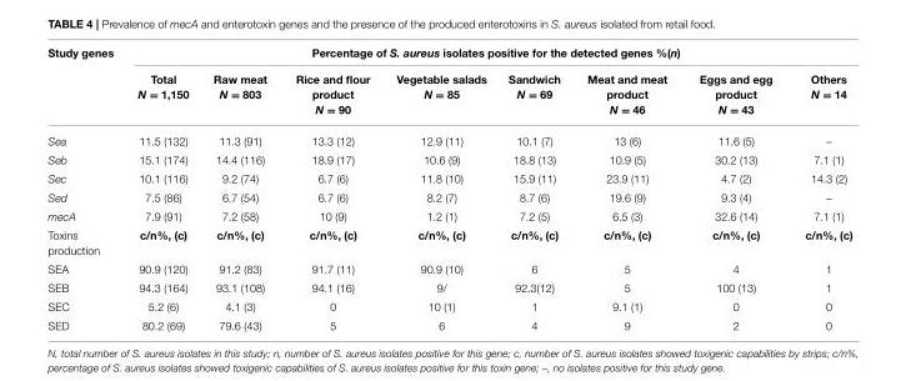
<table><thead><tr><td rowspan="2">Study genes</td><td colspan="8">Percentage of S. aureus isolates positive for the detected genes %(n)</td></tr><tr><td>Total N = 1,150</td><td>Raw meat N = 803</td><td>Rice and flour product N = 90</td><td>Vegetable salads N = 85</td><td>Sandwich N = 69</td><td>Meat and meat product N = 46</td><td>Eggs and egg product N = 43</td><td>Others N = 14</td></tr></thead><tbody><tr><td>Sea</td><td>11.5 (132)</td><td>11.3 (91)</td><td>13.3 (12)</td><td>12.9 (11)</td><td>10.1 (7)</td><td>13 (6)</td><td>11.6 (5)</td><td>–</td></tr><tr><td>Seb</td><td>15.1 (174)</td><td>14.4 (116)</td><td>18.9 (17)</td><td>10.6 (9)</td><td>18.8 (13)</td><td>10.9 (5)</td><td>30.2 (13)</td><td>7.1 (1)</td></tr><tr><td>Sec</td><td>10.1 (116)</td><td>9.2 (74)</td><td>6.7 (6)</td><td>11.8 (10)</td><td>15.9 (11)</td><td>23.9 (11)</td><td>4.7 (2)</td><td>14.3 (2)</td></tr><tr><td>Sed</td><td>7.5 (86)</td><td>6.7 (54)</td><td>6.7 (6)</td><td>8.2 (7)</td><td>8.7 (6)</td><td>19.6 (9)</td><td>9.3 (4)</td><td>–</td></tr><tr><td>mecA</td><td>7.9 (91)</td><td>7.2 (58)</td><td>10 (9)</td><td>1.2 (1)</td><td>7.2 (5)</td><td>6.5 (3)</td><td>32.6 (14)</td><td>7.1 (1)</td></tr><tr><td>Toxins production</td><td>c/n%, (c)</td><td>c/n%, (c)</td><td>c/n%, (c)</td><td>c/n%, (c)</td><td>c/n%, (c)</td><td>c/n%, (c)</td><td>c/n%, (c)</td><td>c/n%, (c)</td></tr><tr><td>SEA</td><td>90.9 (120)</td><td>91.2 (83)</td><td>91.7 (11)</td><td>90.9 (10)</td><td>6</td><td>5</td><td>4</td><td>1</td></tr><tr><td>SEB</td><td>94.3 (164)</td><td>93.1 (108)</td><td>94.1 (16)</td><td>9/</td><td>92.3(12)</td><td>5</td><td>100 (13)</td><td>1</td></tr><tr><td>SEC</td><td>5.2 (6)</td><td>4.1 (3)</td><td>0</td><td>10 (1)</td><td>1</td><td>9.1 (1)</td><td>0</td><td>0</td></tr><tr><td>SED</td><td>80.2 (69)</td><td>79.6 (43)</td><td>5</td><td>6</td><td>4</td><td>9</td><td>2</td><td>0</td></tr></tbody></table>